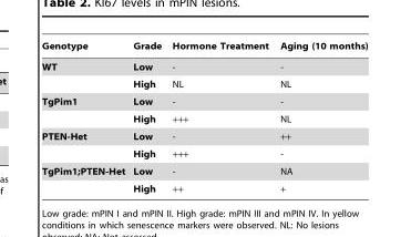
<table><thead><tr><td>Genotype</td><td>Grade</td><td>Hormone Treatment</td><td>Aging (10 months)</td></tr></thead><tbody><tr><td rowspan="2">WT</td><td>Low</td><td>-</td><td>-</td></tr><tr><td>High</td><td>NL</td><td>NL</td></tr><tr><td rowspan="2">TgPim1</td><td>Low</td><td>-</td><td>-</td></tr><tr><td>High</td><td>+++</td><td>NL</td></tr><tr><td rowspan="2">PTEN-Het</td><td>Low</td><td>-</td><td>++</td></tr><tr><td>High</td><td>+++</td><td>-</td></tr><tr><td rowspan="2">TgPim1;PTEN-Het</td><td>Low</td><td>-</td><td>NA</td></tr><tr><td>High</td><td>++</td><td>+</td></tr></tbody></table>